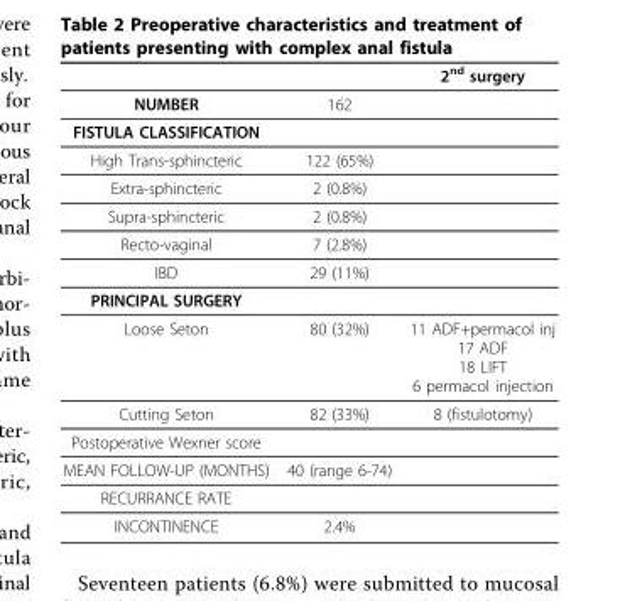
<table><thead><tr><td></td><td></td><td>2<sup>nd</sup> surgery</td></tr></thead><tbody><tr><td>NUMBER</td><td>162</td><td></td></tr><tr><td colspan="3">FISTULA CLASSIFICATION</td></tr><tr><td>High Trans-sphincteric</td><td>122 (65%)</td><td></td></tr><tr><td>Extra-sphincteric</td><td>2 (0.8%)</td><td></td></tr><tr><td>Supra-sphincteric</td><td>2 (0.8%)</td><td></td></tr><tr><td>Recto-vaginal</td><td>7 (2.8%)</td><td></td></tr><tr><td>IBD</td><td>29 (11%)</td><td></td></tr><tr><td colspan="3">PRINCIPAL SURGERY</td></tr><tr><td>Loose Seton</td><td>80 (32%)</td><td>11 ADF+permacol inj 17 ADF 18 LIFT 6 permacol injection</td></tr><tr><td>Cutting Seton</td><td>82 (33%)</td><td>8 (fistulotomy)</td></tr><tr><td colspan="3">Postoperative Wexner score</td></tr><tr><td>MEAN FOLLOW-UP (MONTHS)</td><td>40 (range 6-74)</td><td></td></tr><tr><td colspan="3">RECURRANCE RATE</td></tr><tr><td>INCONTINENCE</td><td>2.4%</td><td></td></tr></tbody></table>